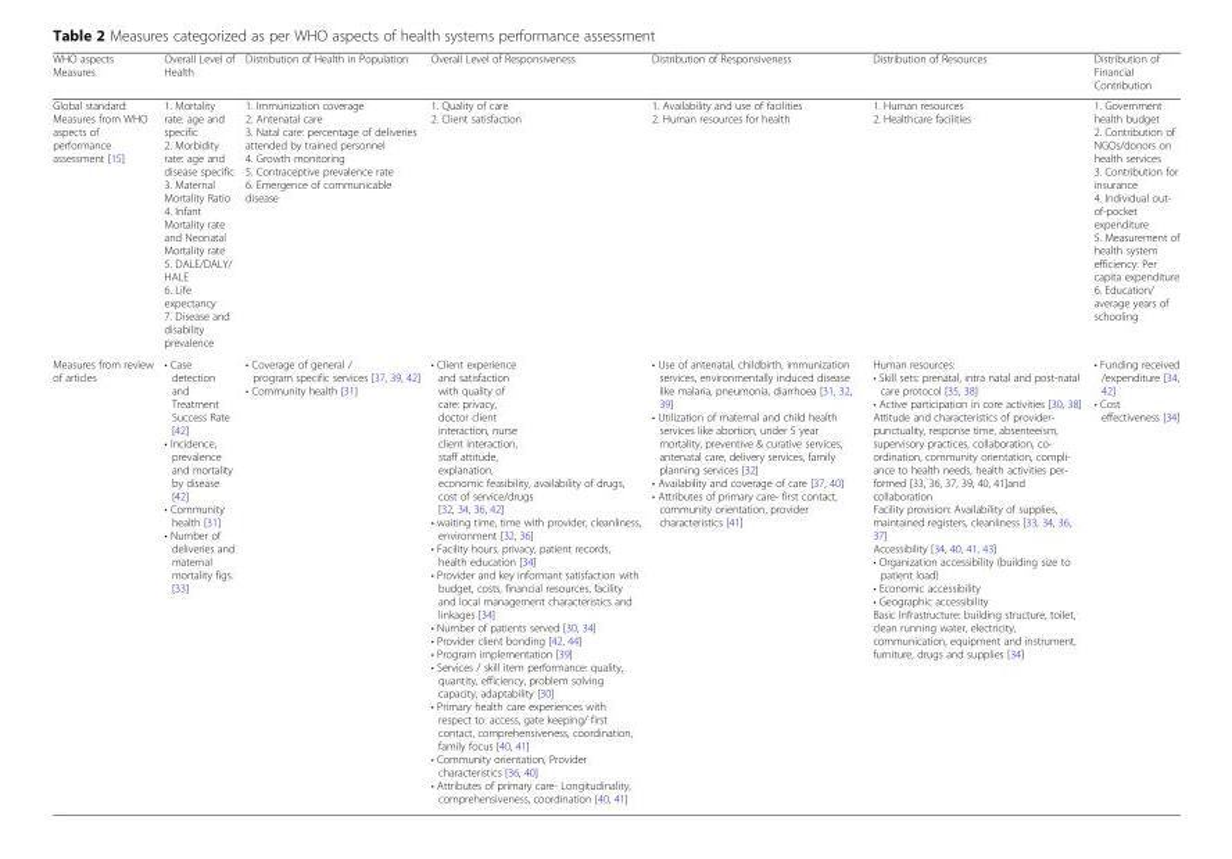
<table><thead><tr><td>WHO aspects Measures</td><td>Overall Level of Health</td><td>Distribution of Health in Population</td><td>Overall Level of Responsiveness</td><td>Distribution of Responsiveness</td><td>Distribution of Resources</td><td>Distribution of Financial Contribution</td></tr></thead><tbody><tr><td>Global standard: Measures from WHO aspects of performance assessment [15]</td><td>1. Mortality rate: age and specific 2. Morbidity rate: age and disease specific 3. Maternal Mortality Ratio 4. Infant Mortality rate and Neonatal Mortality rate 5. DALE/DALY/ HALE 6. Life expectancy 7. Disease and disability prevalence</td><td>1. Immunization coverage 2. Antenatal care 3. Natal care: percentage of deliveries attended by trained personnel 4. Growth monitoring 5. Contraceptive prevalence rate 6. Emergence of communicable disease</td><td>1. Quality of care 2. Client satisfaction</td><td>1. Availability and use of facilities 2. Human resources for health</td><td>1. Human resources 2. Healthcare facilities</td><td>1. Government health budget 2. Contribution of NGOs/donors on health services 3. Contribution for insurance 4. Individual out- of-pocket expenditure 5. Measurement of health system efficiency: Per capita expenditure 6. Education/ average years of schooling</td></tr><tr><td>Measures from review of articles</td><td>• Case detection and Treatment Success Rate [42] • Incidence, prevalence and mortality by disease [42] • Community health [31] • Number of deliveries and maternal mortality figs. [33]</td><td>• Coverage of general / program specific services [37, 39, 42] • Community health [31]</td><td>• Client experience and satisfaction with quality of care: privacy, doctor client interaction, nurse client interaction, staff attitude, explanation, economic feasibility, availability of drugs, cost of service/drugs [32, 34, 36, 42] • waiting time, time with provider, cleanliness, environment [32, 36] • Facility hours, privacy, patient records, health education [34] • Provider and key informant satisfaction with budget, costs, financial resources, facility and local management characteristics and linkages [34] • Number of patients served [30, 34] • Provider client bonding [42, 44] • Program implementation [39] • Services / skill item performance: quality, quantity, efficiency, problem solving capacity, adaptability [30] • Primary health care experiences with respect to: access, gate keeping/ first contact, comprehensiveness, coordination, family focus [40, 41] • Community orientation, Provider characteristics [36, 40] • Attributes of primary care- Longitudinality, comprehensiveness, coordination [40, 41]</td><td>• Use of antenatal, childbirth, immunization services, environmentally induced disease like malaria, pneumonia, diarrhoea [31, 32, 39] • Utilization of maternal and child health services like abortion, under 5 year mortality, preventive &amp; curative services, antenatal care, delivery services, family planning services [32] • Availability and coverage of care [37, 40] • Attributes of primary care- first contact, community orientation, provider characteristics [41]</td><td>Human resources: • Skill sets: prenatal, intra natal and post-natal care protocol [35, 38] • Active participation in core activities [30, 38] Attitude and characteristics of provider- punctuality, response time, absenteeism, supervisory practices, collaboration, co- ordination, community orientation, compli- ance to health needs, health activities per- formed [33, 36, 37, 39, 40, 41]and collaboration Facility provision: Availability of supplies, maintained registers, cleanliness [33, 34, 36, 37] Accessibility [34, 40, 41, 43] • Organization accessibility (building size to patient load) • Economic accessibility • Geographic accessibility Basic Infrastructure: building structure, toilet, clean running water, electricity, communication, equipment and instrument, furniture, drugs and supplies [34]</td><td>• Funding received /expenditure [34, 42] • Cost effectiveness [34]</td></tr></tbody></table>